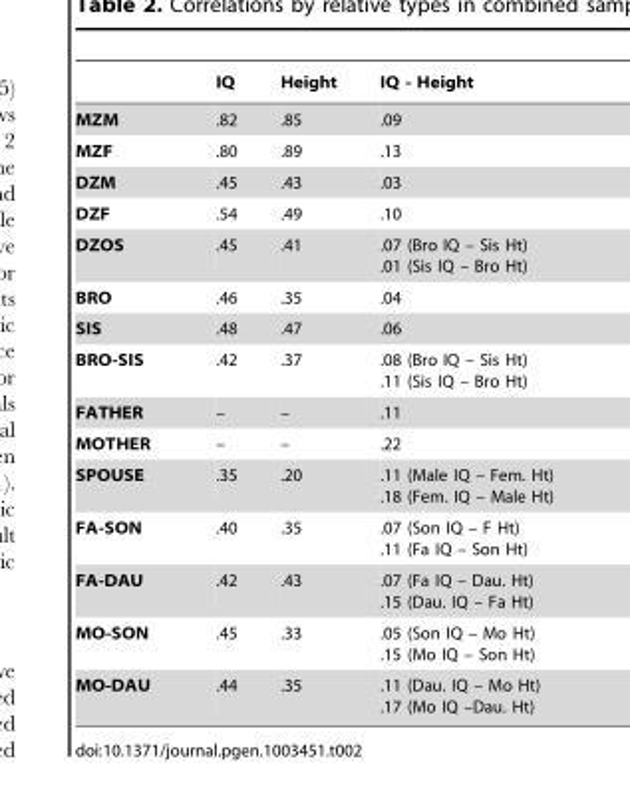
<table><thead><tr><td></td><td>IQ</td><td>Height</td><td>IQ - Height</td></tr></thead><tbody><tr><td>MZM</td><td>.82</td><td>.85</td><td>.09</td></tr><tr><td>MZF</td><td>.80</td><td>.89</td><td>.13</td></tr><tr><td>DZM</td><td>.45</td><td>.43</td><td>.03</td></tr><tr><td>DZF</td><td>.54</td><td>.49</td><td>.10</td></tr><tr><td>DZOS</td><td>.45</td><td>.41</td><td>.07 (Bro IQ – Sis Ht) .01 (Sis IQ – Bro Ht)</td></tr><tr><td>BRO</td><td>.46</td><td>.35</td><td>.04</td></tr><tr><td>SIS</td><td>.48</td><td>.47</td><td>.06</td></tr><tr><td>BRO-SIS</td><td>.42</td><td>.37</td><td>.08 (Bro IQ – Sis Ht) .11 (Sis IQ – Bro Ht)</td></tr><tr><td>FATHER</td><td>–</td><td>–</td><td>.11</td></tr><tr><td>MOTHER</td><td>–</td><td>–</td><td>.22</td></tr><tr><td>SPOUSE</td><td>.35</td><td>.20</td><td>.11 (Male IQ – Fem. Ht) .18 (Fem. IQ – Male Ht)</td></tr><tr><td>FA-SON</td><td>.40</td><td>.35</td><td>.07 (Son IQ – F Ht) .11 (Fa IQ – Son Ht)</td></tr><tr><td>FA-DAU</td><td>.42</td><td>.43</td><td>.07 (Fa IQ – Dau. Ht) .15 (Dau. IQ – Fa Ht)</td></tr><tr><td>MO-SON</td><td>.45</td><td>.33</td><td>.05 (Son IQ – Mo Ht) .15 (Mo IQ – Son Ht)</td></tr><tr><td>MO-DAU</td><td>.44</td><td>.35</td><td>.11 (Dau. IQ – Mo Ht) .17 (Mo IQ –Dau. Ht)</td></tr></tbody></table>